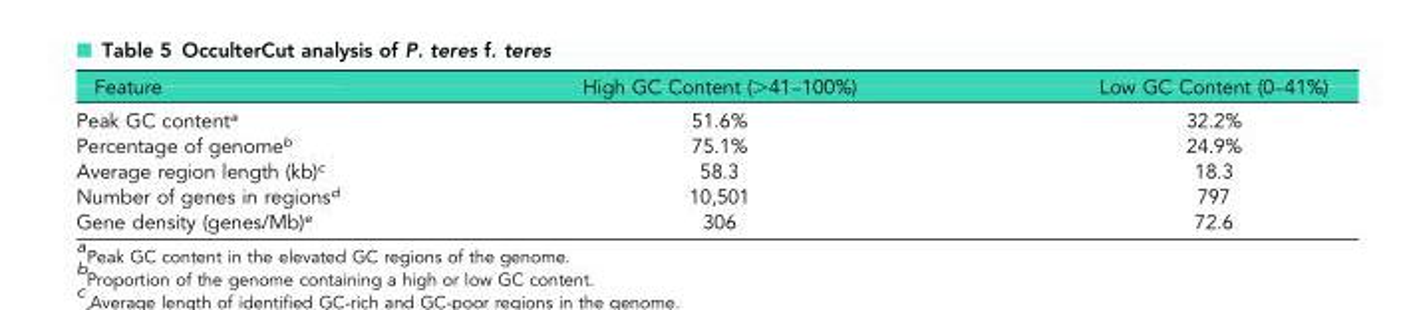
<table><thead><tr><td>Feature</td><td>High GC Content (&gt;41–100%)</td><td>Low GC Content (0–41%)</td></tr></thead><tbody><tr><td>Peak GC content<sup>a</sup></td><td>51.6%</td><td>32.2%</td></tr><tr><td>Percentage of genome<sup>b</sup></td><td>75.1%</td><td>24.9%</td></tr><tr><td>Average region length (kb)<sup>c</sup></td><td>58.3</td><td>18.3</td></tr><tr><td>Number of genes in regions<sup>d</sup></td><td>10,501</td><td>797</td></tr><tr><td>Gene density (genes/Mb)<sup>e</sup></td><td>306</td><td>72.6</td></tr></tbody></table>